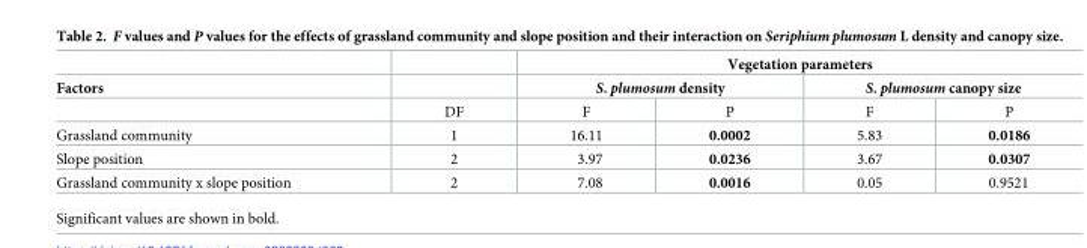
<table><thead><tr><td rowspan="3">Factors</td><td rowspan="3">DF</td><td colspan="4">Vegetation parameters</td></tr><tr><td colspan="2">S. plumosum density</td><td colspan="2">S. plumosum canopy size</td></tr><tr><td>F</td><td>P</td><td>F</td><td>P</td></tr></thead><tbody><tr><td>Grassland community</td><td>1</td><td>16.11</td><td>0.0002</td><td>5.83</td><td>0.0186</td></tr><tr><td>Slope position</td><td>2</td><td>3.97</td><td>0.0236</td><td>3.67</td><td>0.0307</td></tr><tr><td>Grassland community x slope position</td><td>2</td><td>7.08</td><td>0.0016</td><td>0.05</td><td>0.9521</td></tr></tbody></table>